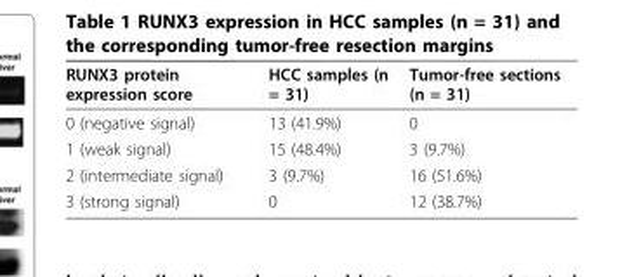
<table><thead><tr><td>RUNX3 protein expression score</td><td>HCC samples (n = 31)</td><td>Tumor-free sections (n = 31)</td></tr></thead><tbody><tr><td>0 (negative signal)</td><td>13 (41.9%)</td><td>0</td></tr><tr><td>1 (weak signal)</td><td>15 (48.4%)</td><td>3 (9.7%)</td></tr><tr><td>2 (intermediate signal)</td><td>3 (9.7%)</td><td>16 (51.6%)</td></tr><tr><td>3 (strong signal)</td><td>0</td><td>12 (38.7%)</td></tr></tbody></table>